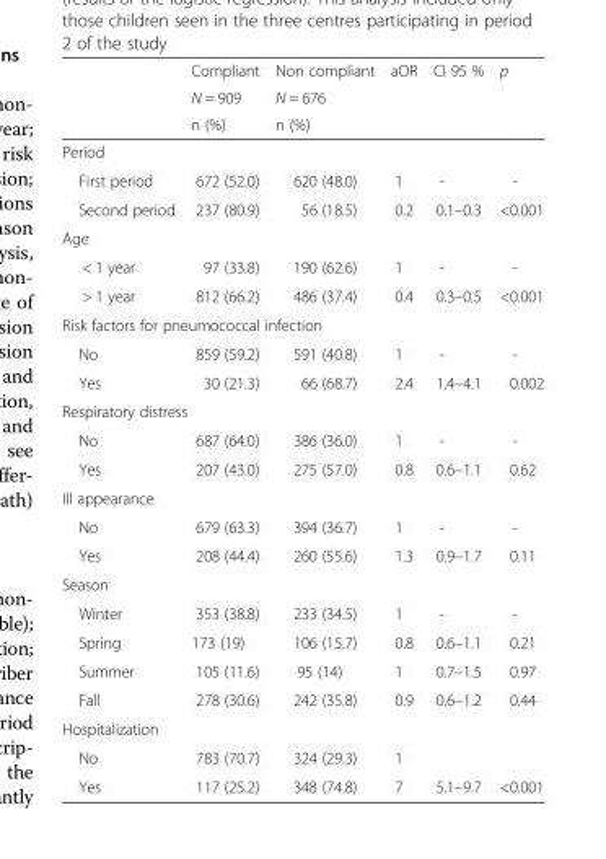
<table><thead><tr><td rowspan="3"></td><td rowspan="3">Compliant N = 909 n (%)</td><td rowspan="3">Non compliant N = 676 n (%)</td><td rowspan="3">aOR</td><td rowspan="3">CI 95 %</td><td rowspan="3">p</td></tr><tr></tr><tr></tr></thead><tbody><tr><td colspan="6">Period</td></tr><tr><td>First period</td><td>672 (52.0)</td><td>620 (48.0)</td><td>1</td><td>-</td><td>-</td></tr><tr><td>Second period</td><td>237 (80.9)</td><td>56 (18.5)</td><td>0.2</td><td>0.1–0.3</td><td>&lt;0.001</td></tr><tr><td colspan="6">Age</td></tr><tr><td>&lt; 1 year</td><td>97 (33.8)</td><td>190 (62.6)</td><td>1</td><td>-</td><td>-</td></tr><tr><td>&gt; 1 year</td><td>812 (66.2)</td><td>486 (37.4)</td><td>0.4</td><td>0.3–0.5</td><td>&lt;0.001</td></tr><tr><td colspan="6">Risk factors for pneumococcal infection</td></tr><tr><td>No</td><td>859 (59.2)</td><td>591 (40.8)</td><td>1</td><td>-</td><td>-</td></tr><tr><td>Yes</td><td>30 (21.3)</td><td>66 (68.7)</td><td>2.4</td><td>1.4–4.1</td><td>0.002</td></tr><tr><td colspan="6">Respiratory distress</td></tr><tr><td>No</td><td>687 (64.0)</td><td>386 (36.0)</td><td>1</td><td>-</td><td>-</td></tr><tr><td>Yes</td><td>207 (43.0)</td><td>275 (57.0)</td><td>0.8</td><td>0.6–1.1</td><td>0.62</td></tr><tr><td colspan="6">Ill appearance</td></tr><tr><td>No</td><td>679 (63.3)</td><td>394 (36.7)</td><td>1</td><td>-</td><td>-</td></tr><tr><td>Yes</td><td>208 (44.4)</td><td>260 (55.6)</td><td>1.3</td><td>0.9–1.7</td><td>0.11</td></tr><tr><td colspan="6">Season</td></tr><tr><td>Winter</td><td>353 (38.8)</td><td>233 (34.5)</td><td>1</td><td>-</td><td>-</td></tr><tr><td>Spring</td><td>173 (19)</td><td>106 (15.7)</td><td>0.8</td><td>0.6–1.1</td><td>0.21</td></tr><tr><td>Summer</td><td>105 (11.6)</td><td>95 (14)</td><td>1</td><td>0.7–1.5</td><td>0.97</td></tr><tr><td>Fall</td><td>278 (30.6)</td><td>242 (35.8)</td><td>0.9</td><td>0.6–1.2</td><td>0.44</td></tr><tr><td colspan="6">Hospitalization</td></tr><tr><td>No</td><td>783 (70.7)</td><td>324 (29.3)</td><td>1</td><td></td><td></td></tr><tr><td>Yes</td><td>117 (25.2)</td><td>348 (74.8)</td><td>7</td><td>5.1–9.7</td><td>&lt;0.001</td></tr></tbody></table>